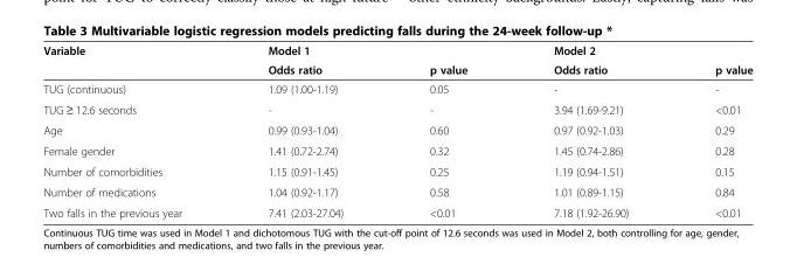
<table><thead><tr><td rowspan="2">Variable</td><td rowspan="2">Model 1 Odds ratio</td><td rowspan="2">p value</td><td rowspan="2">Model 2 Odds ratio</td><td rowspan="2">p value</td></tr><tr></tr></thead><tbody><tr><td>TUG (continuous)</td><td>1.09 (1.00-1.19)</td><td>0.05</td><td>-</td><td>-</td></tr><tr><td>TUG ≥ 12.6 seconds</td><td>-</td><td>-</td><td>3.94 (1.69-9.21)</td><td>&lt;0.01</td></tr><tr><td>Age</td><td>0.99 (0.93-1.04)</td><td>0.60</td><td>0.97 (0.92-1.03)</td><td>0.29</td></tr><tr><td>Female gender</td><td>1.41 (0.72-2.74)</td><td>0.32</td><td>1.45 (0.74-2.86)</td><td>0.28</td></tr><tr><td>Number of comorbidities</td><td>1.15 (0.91-1.45)</td><td>0.25</td><td>1.19 (0.94-1.51)</td><td>0.15</td></tr><tr><td>Number of medications</td><td>1.04 (0.92-1.17)</td><td>0.58</td><td>1.01 (0.89-1.15)</td><td>0.84</td></tr><tr><td>Two falls in the previous year</td><td>7.41 (2.03-27.04)</td><td>&lt;0.01</td><td>7.18 (1.92-26.90)</td><td>&lt;0.01</td></tr></tbody></table>